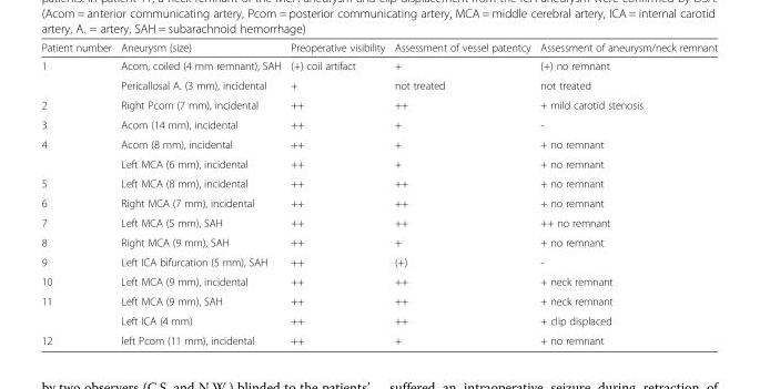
<table><thead><tr><td>Patient number</td><td>Aneurysm (size)</td><td>Preoperative visibility</td><td>Assessment of vessel patentcy</td><td>Assessment of aneurysm/neck remnant</td></tr></thead><tbody><tr><td rowspan="2">1</td><td>Acom, coiled (4 mm remnant), SAH</td><td>(+) coil artifact</td><td>+</td><td>(+) no remnant</td></tr><tr><td>Pericallosal A. (3 mm), incidental</td><td>+</td><td>not treated</td><td>not treated</td></tr><tr><td>2</td><td>Right Pcom (7 mm), incidental</td><td>++</td><td>++</td><td>+ mild carotid stenosis</td></tr><tr><td>3</td><td>Acom (14 mm), incidental</td><td>++</td><td>+</td><td>-</td></tr><tr><td rowspan="2">4</td><td>Acom (8 mm), incidental</td><td>++</td><td>+</td><td>+ no remnant</td></tr><tr><td>Left MCA (6 mm), incidental</td><td>++</td><td>+</td><td>+ no remnant</td></tr><tr><td>5</td><td>Left MCA (8 mm), incidental</td><td>++</td><td>++</td><td>+ no remnant</td></tr><tr><td>6</td><td>Right MCA (7 mm), incidental</td><td>++</td><td>++</td><td>+ no remnant</td></tr><tr><td>7</td><td>Left MCA (5 mm), SAH</td><td>++</td><td>++</td><td>++ no remnant</td></tr><tr><td>8</td><td>Right MCA (9 mm), SAH</td><td>++</td><td>+</td><td>+ no remnant</td></tr><tr><td>9</td><td>Left ICA bifurcation (5 mm), SAH</td><td>++</td><td>(+)</td><td>-</td></tr><tr><td>10</td><td>Left MCA (9 mm), incidental</td><td>++</td><td>++</td><td>+ neck remnant</td></tr><tr><td rowspan="2">11</td><td>Left MCA (9 mm), SAH</td><td>++</td><td>++</td><td>+ neck remnant</td></tr><tr><td>Left ICA (4 mm)</td><td>++</td><td>++</td><td>+ clip displaced</td></tr><tr><td>12</td><td>left Pcom (11 mm), incidental</td><td>++</td><td>+</td><td>+ no remnant</td></tr></tbody></table>